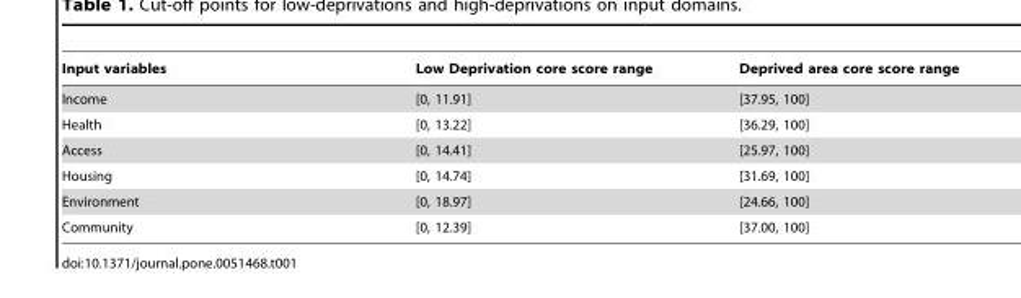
<table><thead><tr><td>Input variables</td><td>Low Deprivation core score range</td><td>Deprived area core score range</td></tr></thead><tbody><tr><td>Income</td><td>[0, 11.91]</td><td>[37.95, 100]</td></tr><tr><td>Health</td><td>[0, 13.22]</td><td>[36.29, 100]</td></tr><tr><td>Access</td><td>[0, 14.41]</td><td>[25.97, 100]</td></tr><tr><td>Housing</td><td>[0, 14.74]</td><td>[31.69, 100]</td></tr><tr><td>Environment</td><td>[0, 18.97]</td><td>[24.66, 100]</td></tr><tr><td>Community</td><td>[0, 12.39]</td><td>[37.00, 100]</td></tr></tbody></table>